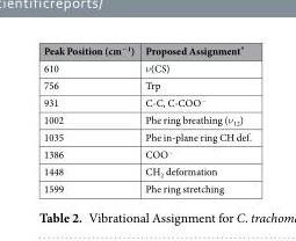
<table><thead><tr><td>Peak Position (cm<sup>−1</sup>)</td><td>Proposed Assignment*</td></tr></thead><tbody><tr><td>610</td><td>ν(CS)</td></tr><tr><td>756</td><td>Trp</td></tr><tr><td>931</td><td>C-C, C-COO<sup>−</sup></td></tr><tr><td>1002</td><td>Phe ring breathing (ν<sub>12</sub>)</td></tr><tr><td>1035</td><td>Phe in-plane ring CH def.</td></tr><tr><td>1386</td><td>COO<sup>−</sup></td></tr><tr><td>1448</td><td>CH<sub>2</sub> deformation</td></tr><tr><td>1599</td><td>Phe ring stretching</td></tr></tbody></table>